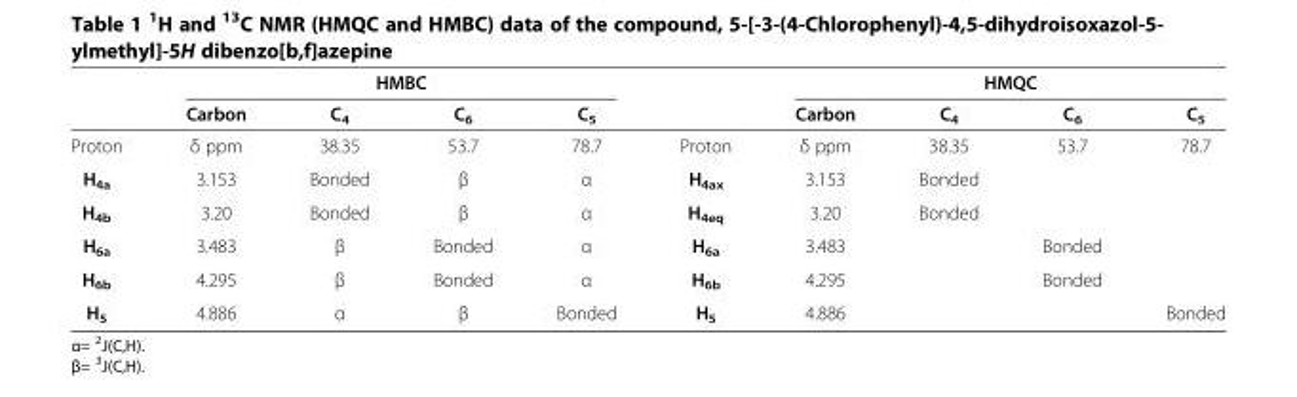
<table><thead><tr><td rowspan="2"></td><td colspan="4">HMBC</td><td rowspan="2"></td><td colspan="4">HMQC</td></tr><tr><td>Carbon</td><td>C<sub>4</sub></td><td>C<sub>6</sub></td><td>C<sub>5</sub></td><td>Carbon</td><td>C<sub>4</sub></td><td>C<sub>6</sub></td><td>C<sub>5</sub></td></tr></thead><tbody><tr><td>Proton</td><td>δ ppm</td><td>38.35</td><td>53.7</td><td>78.7</td><td>Proton</td><td>δ ppm</td><td>38.35</td><td>53.7</td><td>78.7</td></tr><tr><td>H<sub>4a</sub></td><td>3.153</td><td>Bonded</td><td>β</td><td>α</td><td>H<sub>4ax</sub></td><td>3.153</td><td>Bonded</td><td></td><td></td></tr><tr><td>H<sub>4b</sub></td><td>3.20</td><td>Bonded</td><td>β</td><td>α</td><td>H<sub>4eq</sub></td><td>3.20</td><td>Bonded</td><td></td><td></td></tr><tr><td>H<sub>6a</sub></td><td>3.483</td><td>β</td><td>Bonded</td><td>α</td><td>H<sub>6a</sub></td><td>3.483</td><td></td><td>Bonded</td><td></td></tr><tr><td>H<sub>6b</sub></td><td>4.295</td><td>β</td><td>Bonded</td><td>α</td><td>H<sub>6b</sub></td><td>4.295</td><td></td><td>Bonded</td><td></td></tr><tr><td>H<sub>5</sub></td><td>4.886</td><td>α</td><td>β</td><td>Bonded</td><td>H<sub>5</sub></td><td>4.886</td><td></td><td></td><td>Bonded</td></tr></tbody></table>